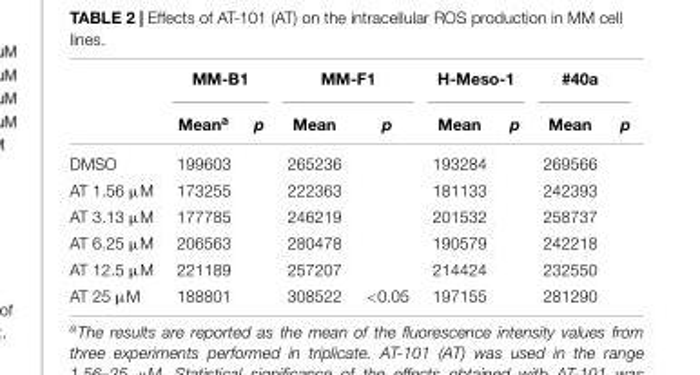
<table><thead><tr><td rowspan="2"></td><td colspan="2">MM-B1</td><td colspan="2">MM-F1</td><td colspan="2">H-Meso-1</td><td colspan="2">#40a</td></tr><tr><td>Mean<sup>a</sup></td><td>p</td><td>Mean</td><td>p</td><td>Mean</td><td>p</td><td>Mean</td><td>p</td></tr></thead><tbody><tr><td>DMSO</td><td>199603</td><td></td><td>265236</td><td></td><td>193284</td><td></td><td>269566</td><td></td></tr><tr><td>AT 1.56 µM</td><td>173255</td><td></td><td>222363</td><td></td><td>181133</td><td></td><td>242393</td><td></td></tr><tr><td>AT 3.13 µM</td><td>177785</td><td></td><td>246219</td><td></td><td>201532</td><td></td><td>258737</td><td></td></tr><tr><td>AT 6.25 µM</td><td>206563</td><td></td><td>280478</td><td></td><td>190579</td><td></td><td>242218</td><td></td></tr><tr><td>AT 12.5 µM</td><td>221189</td><td></td><td>257207</td><td></td><td>214424</td><td></td><td>232550</td><td></td></tr><tr><td>AT 25 µM</td><td>188801</td><td></td><td>308522</td><td>&lt;0.05</td><td>197155</td><td></td><td>281290</td><td></td></tr></tbody></table>